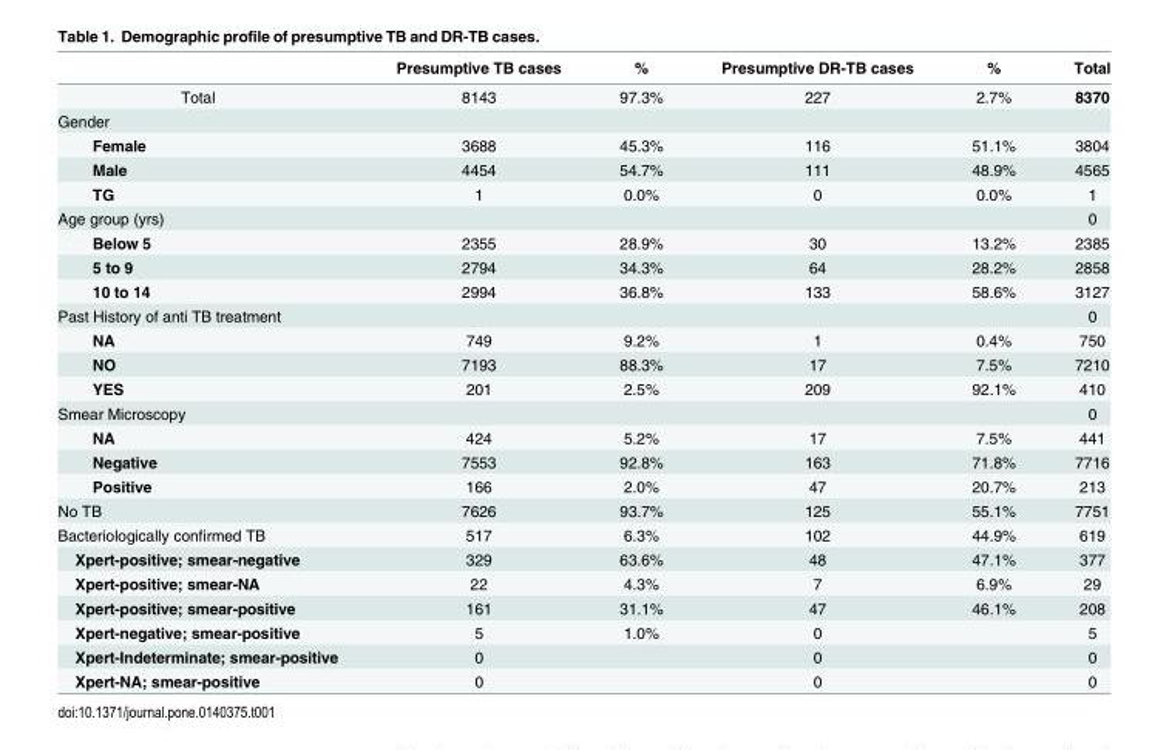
<table><thead><tr><td></td><td>Presumptive TB cases</td><td>%</td><td>Presumptive DR-TB cases</td><td>%</td><td>Total</td></tr></thead><tbody><tr><td>Total</td><td>8143</td><td>97.3%</td><td>227</td><td>2.7%</td><td>8370</td></tr><tr><td colspan="6">Gender</td></tr><tr><td>Female</td><td>3688</td><td>45.3%</td><td>116</td><td>51.1%</td><td>3804</td></tr><tr><td>Male</td><td>4454</td><td>54.7%</td><td>111</td><td>48.9%</td><td>4565</td></tr><tr><td>TG</td><td>1</td><td>0.0%</td><td>0</td><td>0.0%</td><td>1</td></tr><tr><td>Age group (yrs)</td><td></td><td></td><td></td><td></td><td>0</td></tr><tr><td>Below 5</td><td>2355</td><td>28.9%</td><td>30</td><td>13.2%</td><td>2385</td></tr><tr><td>5 to 9</td><td>2794</td><td>34.3%</td><td>64</td><td>28.2%</td><td>2858</td></tr><tr><td>10 to 14</td><td>2994</td><td>36.8%</td><td>133</td><td>58.6%</td><td>3127</td></tr><tr><td>Past History of anti TB treatment</td><td></td><td></td><td></td><td></td><td>0</td></tr><tr><td>NA</td><td>749</td><td>9.2%</td><td>1</td><td>0.4%</td><td>750</td></tr><tr><td>NO</td><td>7193</td><td>88.3%</td><td>17</td><td>7.5%</td><td>7210</td></tr><tr><td>YES</td><td>201</td><td>2.5%</td><td>209</td><td>92.1%</td><td>410</td></tr><tr><td>Smear Microscopy</td><td></td><td></td><td></td><td></td><td>0</td></tr><tr><td>NA</td><td>424</td><td>5.2%</td><td>17</td><td>7.5%</td><td>441</td></tr><tr><td>Negative</td><td>7553</td><td>92.8%</td><td>163</td><td>71.8%</td><td>7716</td></tr><tr><td>Positive</td><td>166</td><td>2.0%</td><td>47</td><td>20.7%</td><td>213</td></tr><tr><td>No TB</td><td>7626</td><td>93.7%</td><td>125</td><td>55.1%</td><td>7751</td></tr><tr><td>Bacteriologically confirmed TB</td><td>517</td><td>6.3%</td><td>102</td><td>44.9%</td><td>619</td></tr><tr><td>Xpert-positive; smear-negative</td><td>329</td><td>63.6%</td><td>48</td><td>47.1%</td><td>377</td></tr><tr><td>Xpert-positive; smear-NA</td><td>22</td><td>4.3%</td><td>7</td><td>6.9%</td><td>29</td></tr><tr><td>Xpert-positive; smear-positive</td><td>161</td><td>31.1%</td><td>47</td><td>46.1%</td><td>208</td></tr><tr><td>Xpert-negative; smear-positive</td><td>5</td><td>1.0%</td><td>0</td><td></td><td>5</td></tr><tr><td>Xpert-Indeterminate; smear-positive</td><td>0</td><td></td><td>0</td><td></td><td>0</td></tr><tr><td>Xpert-NA; smear-positive</td><td>0</td><td></td><td>0</td><td></td><td>0</td></tr></tbody></table>